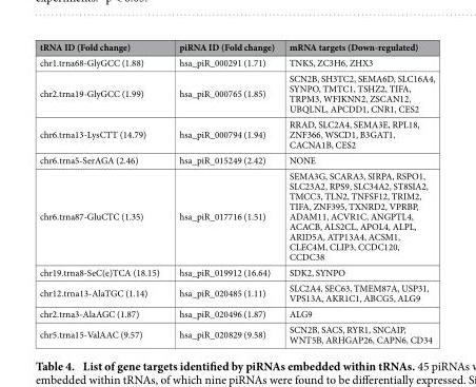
<table><thead><tr><td>tRNA ID (Fold change)</td><td>piRNA ID (Fold change)</td><td>mRNA targets (Down-regulated)</td></tr></thead><tbody><tr><td>chr1.trna68-GlyGCC (1.88)</td><td>hsa_piR_000291 (1.71)</td><td>TNKS, ZC3H6, ZHX3</td></tr><tr><td>chr2.trna19-GlyGCC (1.99)</td><td>hsa_piR_000765 (1.85)</td><td>SCN2B, SH3TC2, SEMA6D, SLC16A4, SYNPO, TMTC1, TSHZ2, TIFA, TRPM3, WFIKNN2, ZSCAN12, UBQLNL, APCDD1, CNR1, CES2</td></tr><tr><td>chr6.trna13-LysCTT (14.79)</td><td>hsa_piR_000794 (1.94)</td><td>RRAD, SLC2A4, SEMA3E, RPL18, ZNF366, WSCD1, B3GAT1, CACNA1B, CES2</td></tr><tr><td>chr6.trna5-SerAGA (2.46)</td><td>hsa_piR_015249 (2.42)</td><td>NONE</td></tr><tr><td>chr6.trna87-GluCTC (1.35)</td><td>hsa_piR_017716 (1.51)</td><td>SEMA3G, SCARA3, SIRPA, RSPO1, SLC23A2, RPS9, SLC34A2, ST8SIA2, TMCC3, TLN2, TNFSF12, TRIM2, TIFA, ZNF395, TXNRD2, VPRBP, ADAM11, ACVR1C, ANGPTL4, ACACB, ALS2CL, APOL4, ALPL, ARID5A, ATP13A4, ACSM1, CLEC4M, CLIP3, CCDC120, CCDC38</td></tr><tr><td>chr19.trna8-SeC(e)TCA (18.15)</td><td>hsa_piR_019912 (16.64)</td><td>SDK2, SYNPO</td></tr><tr><td>chr12.trna13-AlaTGC (1.14)</td><td>hsa_piR_020485 (1.11)</td><td>SLC2A4, SEC63, TMEM87A, USP31, VPS13A, AKR1C1, ABCG5, ALG9</td></tr><tr><td>chr2.trna3-AlaAGC (1.87)</td><td>hsa_piR_020496 (1.87)</td><td>ALG9</td></tr><tr><td>chr5.trna15-ValAAC (9.57)</td><td>hsa_piR_020829 (9.58)</td><td>SCN2B, SACS, RYR1, SNCAIP, WNT5B, ARHGAP26, CAPN6, CD34</td></tr></tbody></table>